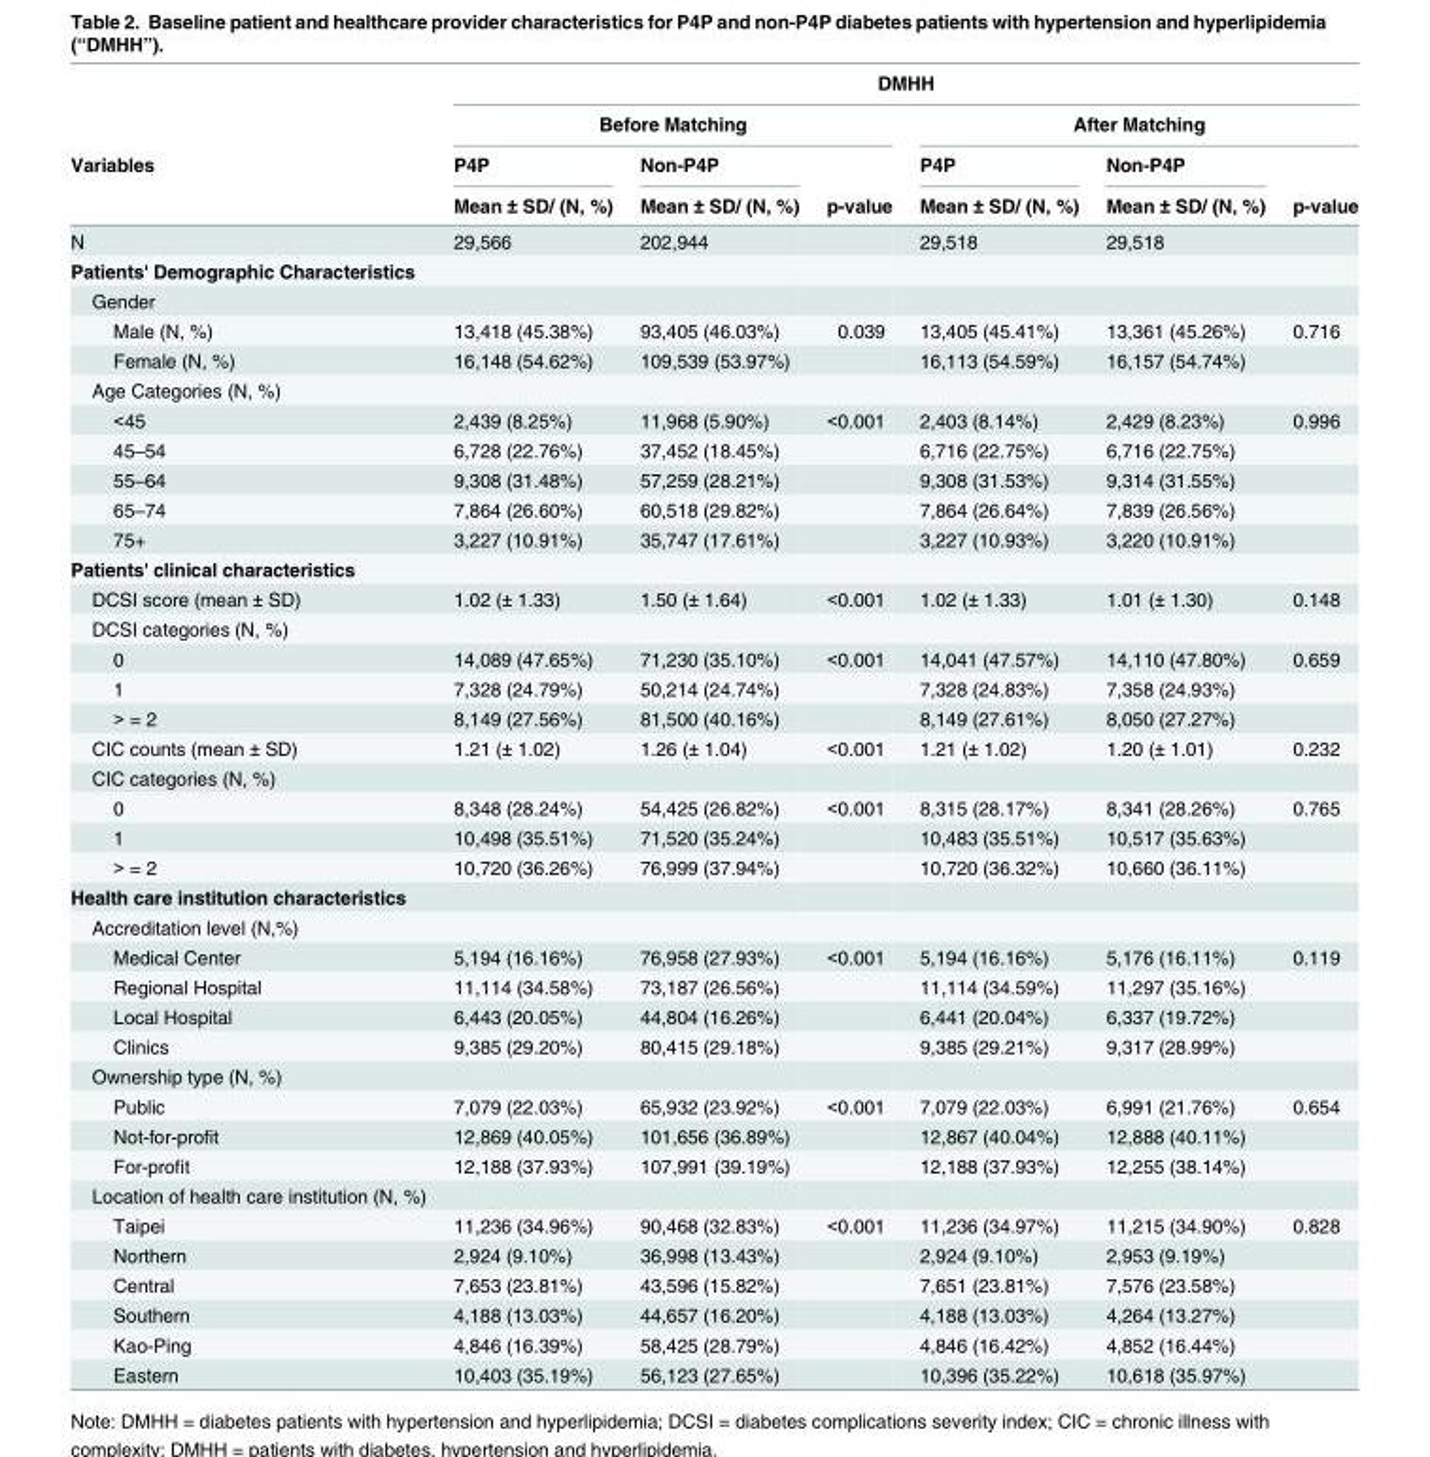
<table><thead><tr><td rowspan="4">Variables</td><td colspan="6">DMHH</td></tr><tr><td colspan="3">Before Matching</td><td colspan="3">After Matching</td></tr><tr><td rowspan="2">P4P Mean ± SD/ (N, %)</td><td rowspan="2">Non-P4P Mean ± SD/ (N, %)</td><td rowspan="2">p-value</td><td rowspan="2">P4P Mean ± SD/ (N, %)</td><td rowspan="2">Non-P4P Mean ± SD/ (N, %)</td><td rowspan="2">p-value</td></tr><tr></tr></thead><tbody><tr><td>N</td><td>29,566</td><td>202,944</td><td></td><td>29,518</td><td>29,518</td><td></td></tr><tr><td colspan="7">Patients&#x27; Demographic Characteristics</td></tr><tr><td colspan="7">Gender</td></tr><tr><td>Male (N, %)</td><td>13,418 (45.38%)</td><td>93,405 (46.03%)</td><td>0.039</td><td>13,405 (45.41%)</td><td>13,361 (45.26%)</td><td>0.716</td></tr><tr><td>Female (N, %)</td><td>16,148 (54.62%)</td><td>109,539 (53.97%)</td><td></td><td>16,113 (54.59%)</td><td>16,157 (54.74%)</td><td></td></tr><tr><td colspan="7">Age Categories (N, %)</td></tr><tr><td>&lt;45</td><td>2,439 (8.25%)</td><td>11,968 (5.90%)</td><td>&lt;0.001</td><td>2,403 (8.14%)</td><td>2,429 (8.23%)</td><td>0.996</td></tr><tr><td>45–54</td><td>6,728 (22.76%)</td><td>37,452 (18.45%)</td><td></td><td>6,716 (22.75%)</td><td>6,716 (22.75%)</td><td></td></tr><tr><td>55–64</td><td>9,308 (31.48%)</td><td>57,259 (28.21%)</td><td></td><td>9,308 (31.53%)</td><td>9,314 (31.55%)</td><td></td></tr><tr><td>65–74</td><td>7,864 (26.60%)</td><td>60,518 (29.82%)</td><td></td><td>7,864 (26.64%)</td><td>7,839 (26.56%)</td><td></td></tr><tr><td>75+</td><td>3,227 (10.91%)</td><td>35,747 (17.61%)</td><td></td><td>3,227 (10.93%)</td><td>3,220 (10.91%)</td><td></td></tr><tr><td colspan="7">Patients&#x27; clinical characteristics</td></tr><tr><td>DCSI score (mean ± SD)</td><td>1.02 (± 1.33)</td><td>1.50 (± 1.64)</td><td>&lt;0.001</td><td>1.02 (± 1.33)</td><td>1.01 (± 1.30)</td><td>0.148</td></tr><tr><td colspan="7">DCSI categories (N, %)</td></tr><tr><td>0</td><td>14,089 (47.65%)</td><td>71,230 (35.10%)</td><td>&lt;0.001</td><td>14,041 (47.57%)</td><td>14,110 (47.80%)</td><td>0.659</td></tr><tr><td>1</td><td>7,328 (24.79%)</td><td>50,214 (24.74%)</td><td></td><td>7,328 (24.83%)</td><td>7,358 (24.93%)</td><td></td></tr><tr><td>&gt; = 2</td><td>8,149 (27.56%)</td><td>81,500 (40.16%)</td><td></td><td>8,149 (27.61%)</td><td>8,050 (27.27%)</td><td></td></tr><tr><td>CIC counts (mean ± SD)</td><td>1.21 (± 1.02)</td><td>1.26 (± 1.04)</td><td>&lt;0.001</td><td>1.21 (± 1.02)</td><td>1.20 (± 1.01)</td><td>0.232</td></tr><tr><td colspan="7">CIC categories (N, %)</td></tr><tr><td>0</td><td>8,348 (28.24%)</td><td>54,425 (26.82%)</td><td>&lt;0.001</td><td>8,315 (28.17%)</td><td>8,341 (28.26%)</td><td>0.765</td></tr><tr><td>1</td><td>10,498 (35.51%)</td><td>71,520 (35.24%)</td><td></td><td>10,483 (35.51%)</td><td>10,517 (35.63%)</td><td></td></tr><tr><td>&gt; = 2</td><td>10,720 (36.26%)</td><td>76,999 (37.94%)</td><td></td><td>10,720 (36.32%)</td><td>10,660 (36.11%)</td><td></td></tr><tr><td colspan="7">Health care institution characteristics</td></tr><tr><td colspan="7">Accreditation level (N,%)</td></tr><tr><td>Medical Center</td><td>5,194 (16.16%)</td><td>76,958 (27.93%)</td><td>&lt;0.001</td><td>5,194 (16.16%)</td><td>5,176 (16.11%)</td><td>0.119</td></tr><tr><td>Regional Hospital</td><td>11,114 (34.58%)</td><td>73,187 (26.56%)</td><td></td><td>11,114 (34.59%)</td><td>11,297 (35.16%)</td><td></td></tr><tr><td>Local Hospital</td><td>6,443 (20.05%)</td><td>44,804 (16.26%)</td><td></td><td>6,441 (20.04%)</td><td>6,337 (19.72%)</td><td></td></tr><tr><td>Clinics</td><td>9,385 (29.20%)</td><td>80,415 (29.18%)</td><td></td><td>9,385 (29.21%)</td><td>9,317 (28.99%)</td><td></td></tr><tr><td colspan="7">Ownership type (N, %)</td></tr><tr><td>Public</td><td>7,079 (22.03%)</td><td>65,932 (23.92%)</td><td>&lt;0.001</td><td>7,079 (22.03%)</td><td>6,991 (21.76%)</td><td>0.654</td></tr><tr><td>Not-for-profit</td><td>12,869 (40.05%)</td><td>101,656 (36.89%)</td><td></td><td>12,867 (40.04%)</td><td>12,888 (40.11%)</td><td></td></tr><tr><td>For-profit</td><td>12,188 (37.93%)</td><td>107,991 (39.19%)</td><td></td><td>12,188 (37.93%)</td><td>12,255 (38.14%)</td><td></td></tr><tr><td colspan="7">Location of health care institution (N, %)</td></tr><tr><td>Taipei</td><td>11,236 (34.96%)</td><td>90,468 (32.83%)</td><td>&lt;0.001</td><td>11,236 (34.97%)</td><td>11,215 (34.90%)</td><td>0.828</td></tr><tr><td>Northern</td><td>2,924 (9.10%)</td><td>36,998 (13.43%)</td><td></td><td>2,924 (9.10%)</td><td>2,953 (9.19%)</td><td></td></tr><tr><td>Central</td><td>7,653 (23.81%)</td><td>43,596 (15.82%)</td><td></td><td>7,651 (23.81%)</td><td>7,576 (23.58%)</td><td></td></tr><tr><td>Southern</td><td>4,188 (13.03%)</td><td>44,657 (16.20%)</td><td></td><td>4,188 (13.03%)</td><td>4,264 (13.27%)</td><td></td></tr><tr><td>Kao-Ping</td><td>4,846 (16.39%)</td><td>58,425 (28.79%)</td><td></td><td>4,846 (16.42%)</td><td>4,852 (16.44%)</td><td></td></tr><tr><td>Eastern</td><td>10,403 (35.19%)</td><td>56,123 (27.65%)</td><td></td><td>10,396 (35.22%)</td><td>10,618 (35.97%)</td><td></td></tr></tbody></table>